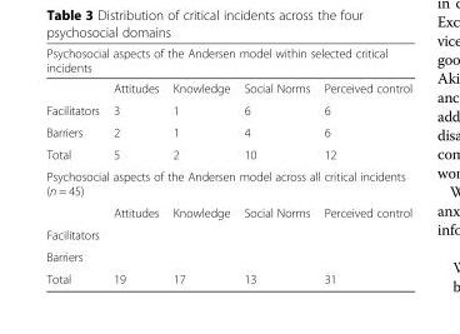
<table><thead><tr><td colspan="5">Psychosocial aspects of the Andersen model within selected critical incidents</td></tr><tr><td></td><td>Attitudes</td><td>Knowledge</td><td>Social Norms</td><td>Perceived control</td></tr></thead><tbody><tr><td>Facilitators</td><td>3</td><td>1</td><td>6</td><td>6</td></tr><tr><td>Barriers</td><td>2</td><td>1</td><td>4</td><td>6</td></tr><tr><td>Total</td><td>5</td><td>2</td><td>10</td><td>12</td></tr><tr><td colspan="5">Psychosocial aspects of the Andersen model across all critical incidents (n = 45)</td></tr><tr><td></td><td>Attitudes</td><td>Knowledge</td><td>Social Norms</td><td>Perceived control</td></tr><tr><td colspan="5">Facilitators</td></tr><tr><td colspan="5">Barriers</td></tr><tr><td>Total</td><td>19</td><td>17</td><td>13</td><td>31</td></tr></tbody></table>